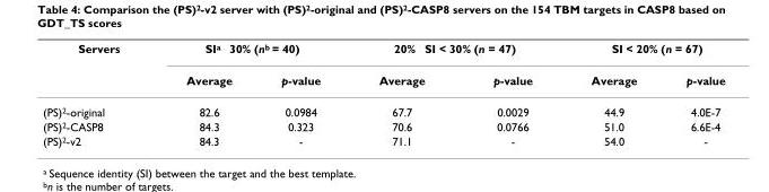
<table><thead><tr><td rowspan="2">Servers</td><td colspan="2">SIa 30% (nb = 40)</td><td colspan="2">20% SI &lt; 30% (n = 47)</td><td colspan="2">SI &lt; 20% (n = 67)</td></tr><tr><td>Average</td><td>p-value</td><td>Average</td><td>p-value</td><td>Average</td><td>p-value</td></tr></thead><tbody><tr><td>(PS)<sup>2</sup>-original</td><td>82.6</td><td>0.0984</td><td>67.7</td><td>0.0029</td><td>44.9</td><td>4.0E-7</td></tr><tr><td>(PS)<sup>2</sup>-CASP8</td><td>84.3</td><td>0.323</td><td>70.6</td><td>0.0766</td><td>51.0</td><td>6.6E-4</td></tr><tr><td>(PS)<sup>2</sup>-v2</td><td>84.3</td><td>-</td><td>71.1</td><td>-</td><td>54.0</td><td>-</td></tr></tbody></table>